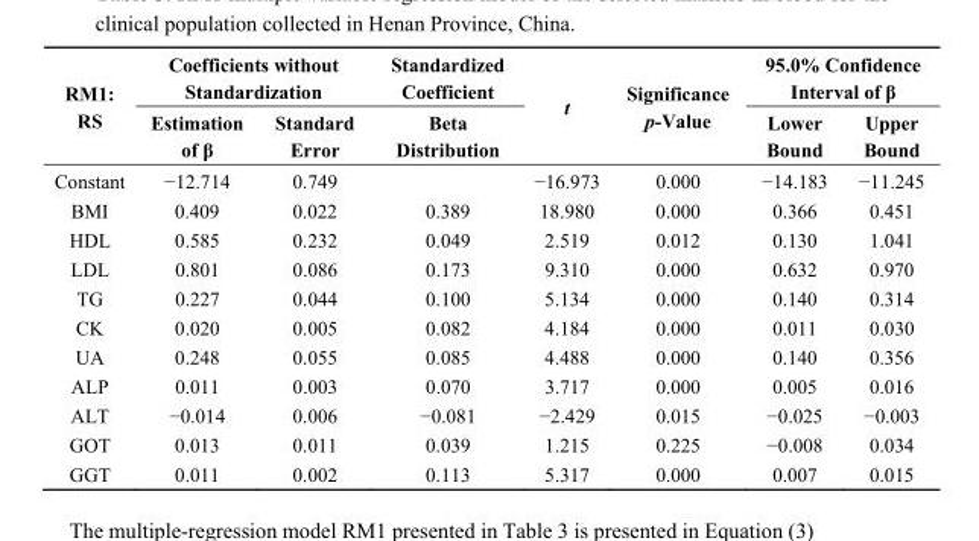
<table><thead><tr><td rowspan="2">RM1: RS</td><td colspan="2">Coefficients without Standardization</td><td rowspan="2">Standardized Coefficient Beta Distribution</td><td rowspan="2">t</td><td rowspan="2">Significance p-Value</td><td colspan="2">95.0% Confidence Interval of β</td></tr><tr><td>Estimation of β</td><td>Standard Error</td><td>Lower Bound</td><td>Upper Bound</td></tr></thead><tbody><tr><td>Constant</td><td>−12.714</td><td>0.749</td><td></td><td>−16.973</td><td>0.000</td><td>−14.183</td><td>−11.245</td></tr><tr><td>BMI</td><td>0.409</td><td>0.022</td><td>0.389</td><td>18.980</td><td>0.000</td><td>0.366</td><td>0.451</td></tr><tr><td>HDL</td><td>0.585</td><td>0.232</td><td>0.049</td><td>2.519</td><td>0.012</td><td>0.130</td><td>1.041</td></tr><tr><td>LDL</td><td>0.801</td><td>0.086</td><td>0.173</td><td>9.310</td><td>0.000</td><td>0.632</td><td>0.970</td></tr><tr><td>TG</td><td>0.227</td><td>0.044</td><td>0.100</td><td>5.134</td><td>0.000</td><td>0.140</td><td>0.314</td></tr><tr><td>CK</td><td>0.020</td><td>0.005</td><td>0.082</td><td>4.184</td><td>0.000</td><td>0.011</td><td>0.030</td></tr><tr><td>UA</td><td>0.248</td><td>0.055</td><td>0.085</td><td>4.488</td><td>0.000</td><td>0.140</td><td>0.356</td></tr><tr><td>ALP</td><td>0.011</td><td>0.003</td><td>0.070</td><td>3.717</td><td>0.000</td><td>0.005</td><td>0.016</td></tr><tr><td>ALT</td><td>−0.014</td><td>0.006</td><td>−0.081</td><td>−2.429</td><td>0.015</td><td>−0.025</td><td>−0.003</td></tr><tr><td>GOT</td><td>0.013</td><td>0.011</td><td>0.039</td><td>1.215</td><td>0.225</td><td>−0.008</td><td>0.034</td></tr><tr><td>GGT</td><td>0.011</td><td>0.002</td><td>0.113</td><td>5.317</td><td>0.000</td><td>0.007</td><td>0.015</td></tr></tbody></table>